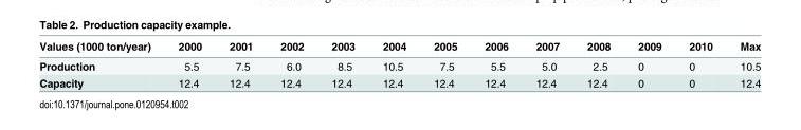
<table><thead><tr><td>Values (1000 ton/year)</td><td>2000</td><td>2001</td><td>2002</td><td>2003</td><td>2004</td><td>2005</td><td>2006</td><td>2007</td><td>2008</td><td>2009</td><td>2010</td><td>Max</td></tr></thead><tbody><tr><td>Production</td><td>5.5</td><td>7.5</td><td>6.0</td><td>8.5</td><td>10.5</td><td>7.5</td><td>5.5</td><td>5.0</td><td>2.5</td><td>0</td><td>0</td><td>10.5</td></tr><tr><td>Capacity</td><td>12.4</td><td>12.4</td><td>12.4</td><td>12.4</td><td>12.4</td><td>12.4</td><td>12.4</td><td>12.4</td><td>12.4</td><td>0</td><td>0</td><td>12.4</td></tr></tbody></table>